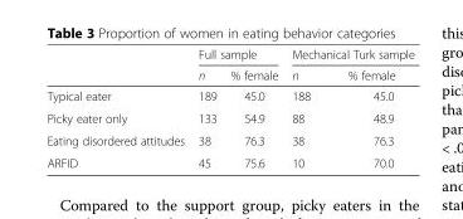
<table><thead><tr><td rowspan="2"></td><td colspan="2">Full sample</td><td colspan="2">Mechanical Turk sample</td></tr><tr><td>n</td><td>% female</td><td>n</td><td>% female</td></tr></thead><tbody><tr><td>Typical eater</td><td>189</td><td>45.0</td><td>188</td><td>45.0</td></tr><tr><td>Picky eater only</td><td>133</td><td>54.9</td><td>88</td><td>48.9</td></tr><tr><td>Eating disordered attitudes</td><td>38</td><td>76.3</td><td>38</td><td>76.3</td></tr><tr><td>ARFID</td><td>45</td><td>75.6</td><td>10</td><td>70.0</td></tr></tbody></table>